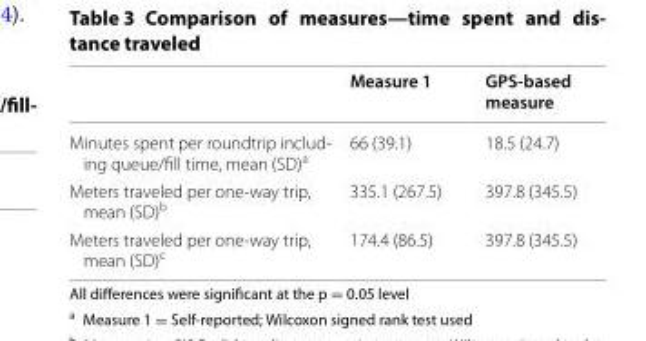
<table><thead><tr><td></td><td>Measure 1</td><td>GPS‑based measure</td></tr></thead><tbody><tr><td>Minutes spent per roundtrip includ- ing queue/fill time, mean (SD)a</td><td>66 (39.1)</td><td>18.5 (24.7)</td></tr><tr><td>Meters traveled per one-way trip, mean (SD)<sup>b</sup></td><td>335.1 (267.5)</td><td>397.8 (345.5)</td></tr><tr><td>Meters traveled per one-way trip, mean (SD)<sup>c</sup></td><td>174.4 (86.5)</td><td>397.8 (345.5)</td></tr></tbody></table>